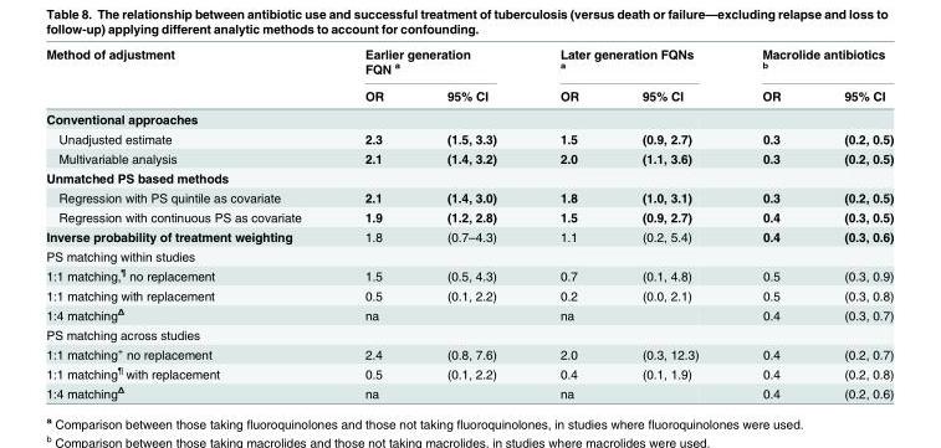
<table><thead><tr><td rowspan="2">Method of adjustment</td><td colspan="2">Earlier generation FQN <sup>a</sup></td><td colspan="2">Later generation FQNs <sup>a</sup></td><td colspan="2">Macrolide antibiotics <sup>b</sup></td></tr><tr><td>OR</td><td>95% CI</td><td>OR</td><td>95% CI</td><td>OR</td><td>95% CI</td></tr></thead><tbody><tr><td colspan="7">Conventional approaches</td></tr><tr><td>Unadjusted estimate</td><td>2.3</td><td>(1.5, 3.3)</td><td>1.5</td><td>(0.9, 2.7)</td><td>0.3</td><td>(0.2, 0.5)</td></tr><tr><td>Multivariable analysis</td><td>2.1</td><td>(1.4, 3.2)</td><td>2.0</td><td>(1.1, 3.6)</td><td>0.3</td><td>(0.2, 0.5)</td></tr><tr><td colspan="7">Unmatched PS based methods</td></tr><tr><td>Regression with PS quintile as covariate</td><td>2.1</td><td>(1.4, 3.0)</td><td>1.8</td><td>(1.0, 3.1)</td><td>0.3</td><td>(0.2, 0.5)</td></tr><tr><td>Regression with continuous PS as covariate</td><td>1.9</td><td>(1.2, 2.8)</td><td>1.5</td><td>(0.9, 2.7)</td><td>0.4</td><td>(0.3, 0.5)</td></tr><tr><td>Inverse probability of treatment weighting</td><td>1.8</td><td>(0.7–4.3)</td><td>1.1</td><td>(0.2, 5.4)</td><td>0.4</td><td>(0.3, 0.6)</td></tr><tr><td colspan="7">PS matching within studies</td></tr><tr><td>1:1 matching,<sup>¶</sup> no replacement</td><td>1.5</td><td>(0.5, 4.3)</td><td>0.7</td><td>(0.1, 4.8)</td><td>0.5</td><td>(0.3, 0.9)</td></tr><tr><td>1:1 matching with replacement</td><td>0.5</td><td>(0.1, 2.2)</td><td>0.2</td><td>(0.0, 2.1)</td><td>0.5</td><td>(0.3, 0.8)</td></tr><tr><td>1:4 matching<sup>Δ</sup></td><td>na</td><td></td><td>na</td><td></td><td>0.4</td><td>(0.3, 0.7)</td></tr><tr><td colspan="7">PS matching across studies</td></tr><tr><td>1:1 matching<sup>+</sup> no replacement</td><td>2.4</td><td>(0.8, 7.6)</td><td>2.0</td><td>(0.3, 12.3)</td><td>0.4</td><td>(0.2, 0.7)</td></tr><tr><td>1:1 matching<sup>¶</sup> with replacement</td><td>0.5</td><td>(0.1, 2.2)</td><td>0.4</td><td>(0.1, 1.9)</td><td>0.4</td><td>(0.2, 0.8)</td></tr><tr><td>1:4 matching<sup>Δ</sup></td><td>na</td><td></td><td>na</td><td></td><td>0.4</td><td>(0.2, 0.6)</td></tr></tbody></table>